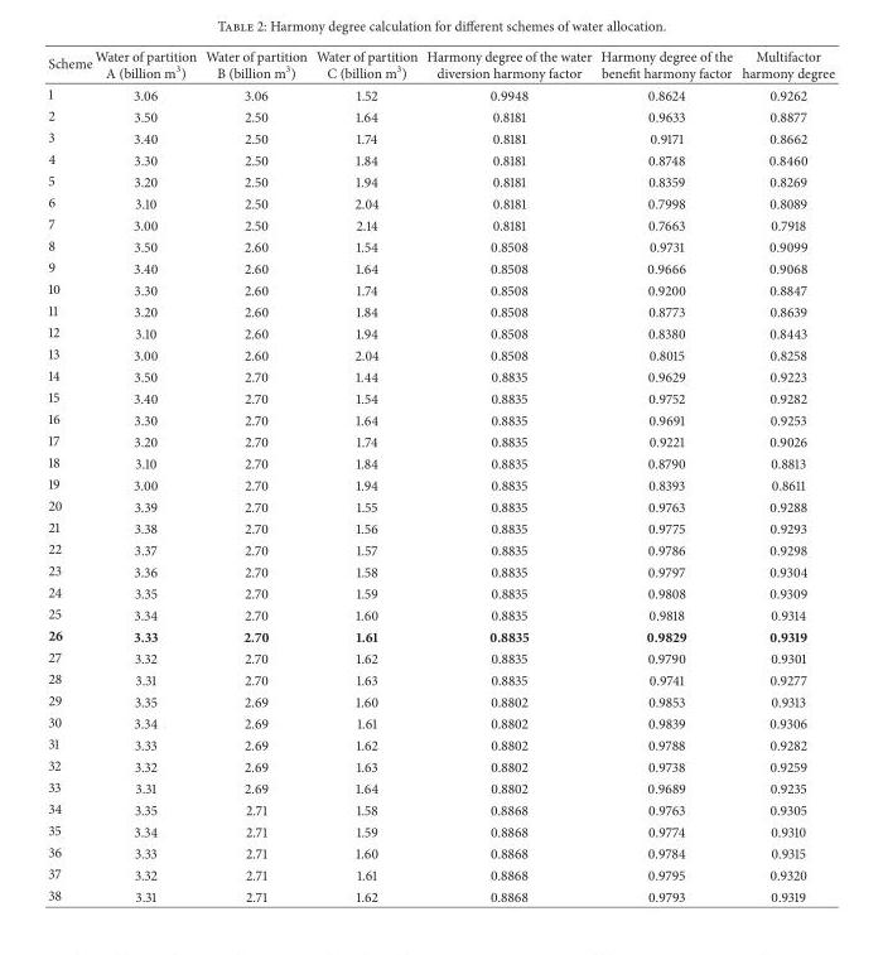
<table><thead><tr><td>Scheme</td><td>Water of partition A (billion m<sup>3</sup>)</td><td>Water of partition B (billion m<sup>3</sup>)</td><td>Water of partition C (billion m<sup>3</sup>)</td><td>Harmony degree of the water diversion harmony factor</td><td>Harmony degree of the benefit harmony factor</td><td>Multifactor harmony degree</td></tr></thead><tbody><tr><td>1</td><td>3.06</td><td>3.06</td><td>1.52</td><td>0.9948</td><td>0.8624</td><td>0.9262</td></tr><tr><td>2</td><td>3.50</td><td>2.50</td><td>1.64</td><td>0.8181</td><td>0.9633</td><td>0.8877</td></tr><tr><td>3</td><td>3.40</td><td>2.50</td><td>1.74</td><td>0.8181</td><td>0.9171</td><td>0.8662</td></tr><tr><td>4</td><td>3.30</td><td>2.50</td><td>1.84</td><td>0.8181</td><td>0.8748</td><td>0.8460</td></tr><tr><td>5</td><td>3.20</td><td>2.50</td><td>1.94</td><td>0.8181</td><td>0.8359</td><td>0.8269</td></tr><tr><td>6</td><td>3.10</td><td>2.50</td><td>2.04</td><td>0.8181</td><td>0.7998</td><td>0.8089</td></tr><tr><td>7</td><td>3.00</td><td>2.50</td><td>2.14</td><td>0.8181</td><td>0.7663</td><td>0.7918</td></tr><tr><td>8</td><td>3.50</td><td>2.60</td><td>1.54</td><td>0.8508</td><td>0.9731</td><td>0.9099</td></tr><tr><td>9</td><td>3.40</td><td>2.60</td><td>1.64</td><td>0.8508</td><td>0.9666</td><td>0.9068</td></tr><tr><td>10</td><td>3.30</td><td>2.60</td><td>1.74</td><td>0.8508</td><td>0.9200</td><td>0.8847</td></tr><tr><td>11</td><td>3.20</td><td>2.60</td><td>1.84</td><td>0.8508</td><td>0.8773</td><td>0.8639</td></tr><tr><td>12</td><td>3.10</td><td>2.60</td><td>1.94</td><td>0.8508</td><td>0.8380</td><td>0.8443</td></tr><tr><td>13</td><td>3.00</td><td>2.60</td><td>2.04</td><td>0.8508</td><td>0.8015</td><td>0.8258</td></tr><tr><td>14</td><td>3.50</td><td>2.70</td><td>1.44</td><td>0.8835</td><td>0.9629</td><td>0.9223</td></tr><tr><td>15</td><td>3.40</td><td>2.70</td><td>1.54</td><td>0.8835</td><td>0.9752</td><td>0.9282</td></tr><tr><td>16</td><td>3.30</td><td>2.70</td><td>1.64</td><td>0.8835</td><td>0.9691</td><td>0.9253</td></tr><tr><td>17</td><td>3.20</td><td>2.70</td><td>1.74</td><td>0.8835</td><td>0.9221</td><td>0.9026</td></tr><tr><td>18</td><td>3.10</td><td>2.70</td><td>1.84</td><td>0.8835</td><td>0.8790</td><td>0.8813</td></tr><tr><td>19</td><td>3.00</td><td>2.70</td><td>1.94</td><td>0.8835</td><td>0.8393</td><td>0.8611</td></tr><tr><td>20</td><td>3.39</td><td>2.70</td><td>1.55</td><td>0.8835</td><td>0.9763</td><td>0.9288</td></tr><tr><td>21</td><td>3.38</td><td>2.70</td><td>1.56</td><td>0.8835</td><td>0.9775</td><td>0.9293</td></tr><tr><td>22</td><td>3.37</td><td>2.70</td><td>1.57</td><td>0.8835</td><td>0.9786</td><td>0.9298</td></tr><tr><td>23</td><td>3.36</td><td>2.70</td><td>1.58</td><td>0.8835</td><td>0.9797</td><td>0.9304</td></tr><tr><td>24</td><td>3.35</td><td>2.70</td><td>1.59</td><td>0.8835</td><td>0.9808</td><td>0.9309</td></tr><tr><td>25</td><td>3.34</td><td>2.70</td><td>1.60</td><td>0.8835</td><td>0.9818</td><td>0.9314</td></tr><tr><td>26</td><td>3.33</td><td>2.70</td><td>1.61</td><td>0.8835</td><td>0.9829</td><td>0.9319</td></tr><tr><td>27</td><td>3.32</td><td>2.70</td><td>1.62</td><td>0.8835</td><td>0.9790</td><td>0.9301</td></tr><tr><td>28</td><td>3.31</td><td>2.70</td><td>1.63</td><td>0.8835</td><td>0.9741</td><td>0.9277</td></tr><tr><td>29</td><td>3.35</td><td>2.69</td><td>1.60</td><td>0.8802</td><td>0.9853</td><td>0.9313</td></tr><tr><td>30</td><td>3.34</td><td>2.69</td><td>1.61</td><td>0.8802</td><td>0.9839</td><td>0.9306</td></tr><tr><td>31</td><td>3.33</td><td>2.69</td><td>1.62</td><td>0.8802</td><td>0.9788</td><td>0.9282</td></tr><tr><td>32</td><td>3.32</td><td>2.69</td><td>1.63</td><td>0.8802</td><td>0.9738</td><td>0.9259</td></tr><tr><td>33</td><td>3.31</td><td>2.69</td><td>1.64</td><td>0.8802</td><td>0.9689</td><td>0.9235</td></tr><tr><td>34</td><td>3.35</td><td>2.71</td><td>1.58</td><td>0.8868</td><td>0.9763</td><td>0.9305</td></tr><tr><td>35</td><td>3.34</td><td>2.71</td><td>1.59</td><td>0.8868</td><td>0.9774</td><td>0.9310</td></tr><tr><td>36</td><td>3.33</td><td>2.71</td><td>1.60</td><td>0.8868</td><td>0.9784</td><td>0.9315</td></tr><tr><td>37</td><td>3.32</td><td>2.71</td><td>1.61</td><td>0.8868</td><td>0.9795</td><td>0.9320</td></tr><tr><td>38</td><td>3.31</td><td>2.71</td><td>1.62</td><td>0.8868</td><td>0.9793</td><td>0.9319</td></tr></tbody></table>